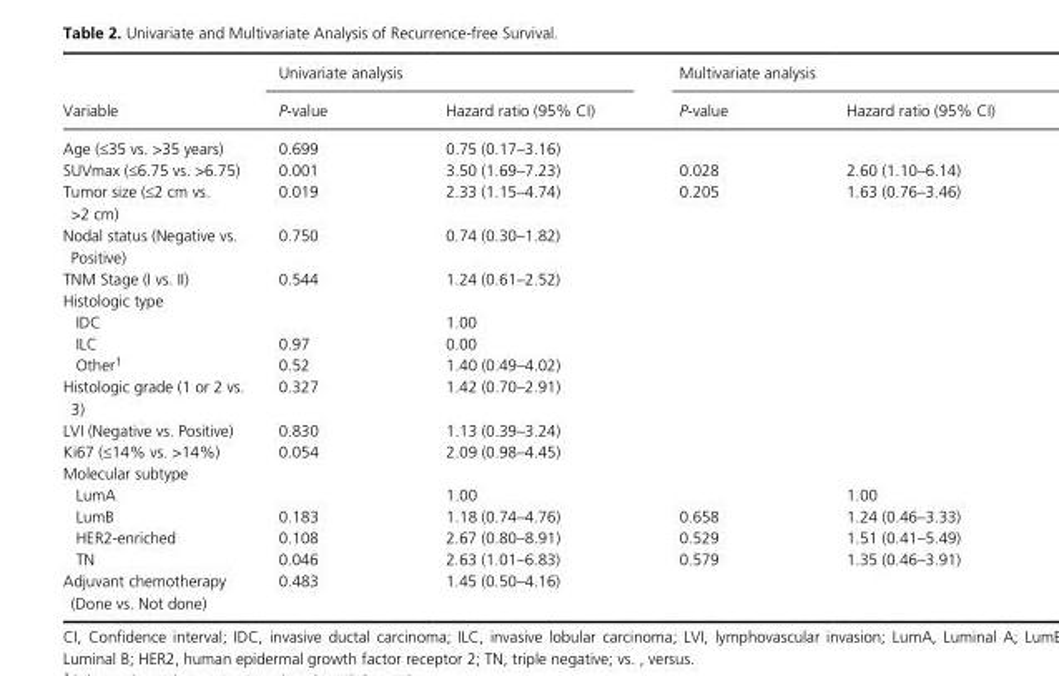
<table><thead><tr><td rowspan="2">Variable</td><td colspan="2">Univariate analysis</td><td colspan="2">Multivariate analysis</td></tr><tr><td>P- value</td><td>Hazard ratio (95% CI)</td><td>P- value</td><td>Hazard ratio (95% CI)</td></tr></thead><tbody><tr><td>Age (≤35 vs. &gt;35 years)</td><td>0.699</td><td>0.75 (0.17–3.16)</td><td></td><td></td></tr><tr><td>SUVmax (≤6.75 vs. &gt;6.75)</td><td>0.001</td><td>3.50 (1.69–7.23)</td><td>0.028</td><td>2.60 (1.10–6.14)</td></tr><tr><td>Tumor size (≤2 cm vs. &gt;2 cm)</td><td>0.019</td><td>2.33 (1.15–4.74)</td><td>0.205</td><td>1.63 (0.76–3.46)</td></tr><tr><td>Nodal status (Negative vs. Positive)</td><td>0.750</td><td>0.74 (0.30–1.82)</td><td></td><td></td></tr><tr><td>TNM Stage (I vs. II)</td><td>0.544</td><td>1.24 (0.61–2.52)</td><td></td><td></td></tr><tr><td colspan="5">Histologic type</td></tr><tr><td>IDC</td><td></td><td>1.00</td><td></td><td></td></tr><tr><td>ILC</td><td>0.97</td><td>0.00</td><td></td><td></td></tr><tr><td>Other1</td><td>0.52</td><td>1.40 (0.49–4.02)</td><td></td><td></td></tr><tr><td>Histologic grade (1 or 2 vs. 3)</td><td>0.327</td><td>1.42 (0.70–2.91)</td><td></td><td></td></tr><tr><td>LVI (Negative vs. Positive)</td><td>0.830</td><td>1.13 (0.39–3.24)</td><td></td><td></td></tr><tr><td>Ki67 (≤14% vs. &gt;14%)</td><td>0.054</td><td>2.09 (0.98–4.45)</td><td></td><td></td></tr><tr><td colspan="5">Molecular subtype</td></tr><tr><td>LumA</td><td></td><td>1.00</td><td></td><td>1.00</td></tr><tr><td>LumB</td><td>0.183</td><td>1.18 (0.74–4.76)</td><td>0.658</td><td>1.24 (0.46–3.33)</td></tr><tr><td>HER2- enriched</td><td>0.108</td><td>2.67 (0.80–8.91)</td><td>0.529</td><td>1.51 (0.41–5.49)</td></tr><tr><td>TN</td><td>0.046</td><td>2.63 (1.01–6.83)</td><td>0.579</td><td>1.35 (0.46–3.91)</td></tr><tr><td>Adjuvant chemotherapy (Done vs. Not done)</td><td>0.483</td><td>1.45 (0.50–4.16)</td><td></td><td></td></tr></tbody></table>